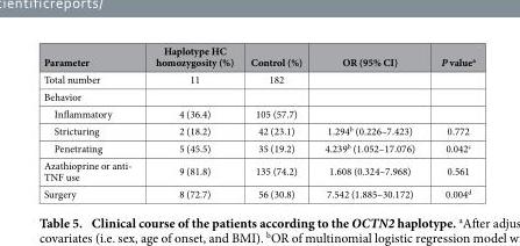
<table><thead><tr><td>Parameter</td><td>Haplotype HC homozygosity (%)</td><td>Control (%)</td><td>OR (95% CI)</td><td>P value<sup>a</sup></td></tr></thead><tbody><tr><td>Total number</td><td>11</td><td>182</td><td></td><td></td></tr><tr><td colspan="5">Behavior</td></tr><tr><td>Inflammatory</td><td>4 (36.4)</td><td>105 (57.7)</td><td></td><td></td></tr><tr><td>Stricturing</td><td>2 (18.2)</td><td>42 (23.1)</td><td>1.294<sup>b</sup> (0.226–7.423)</td><td>0.772</td></tr><tr><td>Penetrating</td><td>5 (45.5)</td><td>35 (19.2)</td><td>4.239<sup>b</sup> (1.052–17.076)</td><td>0.042<sup>c</sup></td></tr><tr><td>Azathioprine or anti- TNF use</td><td>9 (81.8)</td><td>135 (74.2)</td><td>1.608 (0.324–7.968)</td><td>0.561</td></tr><tr><td>Surgery</td><td>8 (72.7)</td><td>56 (30.8)</td><td>7.542 (1.885–30.172)</td><td>0.004<sup>d</sup></td></tr></tbody></table>